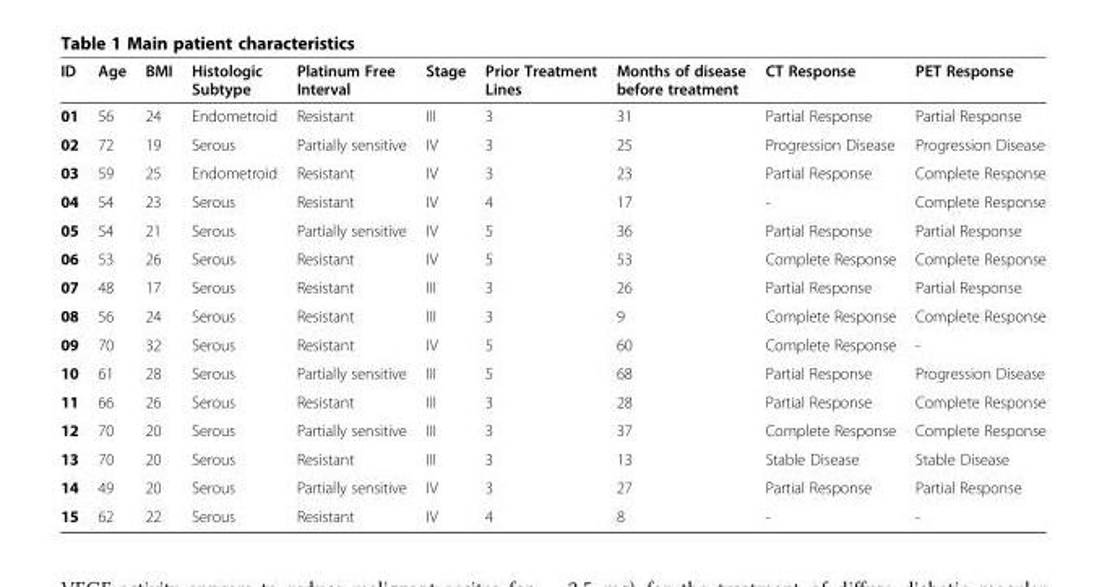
<table><thead><tr><td>ID</td><td>Age</td><td>BMI</td><td>Histologic Subtype</td><td>Platinum Free Interval</td><td>Stage</td><td>Prior Treatment Lines</td><td>Months of disease before treatment</td><td>CT Response</td><td>PET Response</td></tr></thead><tbody><tr><td>01</td><td>56</td><td>24</td><td>Endometroid</td><td>Resistant</td><td>III</td><td>3</td><td>31</td><td>Partial Response</td><td>Partial Response</td></tr><tr><td>02</td><td>72</td><td>19</td><td>Serous</td><td>Partially sensitive</td><td>IV</td><td>3</td><td>25</td><td>Progression Disease</td><td>Progression Disease</td></tr><tr><td>03</td><td>59</td><td>25</td><td>Endometroid</td><td>Resistant</td><td>IV</td><td>3</td><td>23</td><td>Partial Response</td><td>Complete Response</td></tr><tr><td>04</td><td>54</td><td>23</td><td>Serous</td><td>Resistant</td><td>IV</td><td>4</td><td>17</td><td>-</td><td>Complete Response</td></tr><tr><td>05</td><td>54</td><td>21</td><td>Serous</td><td>Partially sensitive</td><td>IV</td><td>5</td><td>36</td><td>Partial Response</td><td>Partial Response</td></tr><tr><td>06</td><td>53</td><td>26</td><td>Serous</td><td>Resistant</td><td>IV</td><td>5</td><td>53</td><td>Complete Response</td><td>Complete Response</td></tr><tr><td>07</td><td>48</td><td>17</td><td>Serous</td><td>Resistant</td><td>III</td><td>3</td><td>26</td><td>Partial Response</td><td>Partial Response</td></tr><tr><td>08</td><td>56</td><td>24</td><td>Serous</td><td>Resistant</td><td>III</td><td>3</td><td>9</td><td>Complete Response</td><td>Complete Response</td></tr><tr><td>09</td><td>70</td><td>32</td><td>Serous</td><td>Resistant</td><td>IV</td><td>5</td><td>60</td><td>Complete Response</td><td>-</td></tr><tr><td>10</td><td>61</td><td>28</td><td>Serous</td><td>Partially sensitive</td><td>III</td><td>5</td><td>68</td><td>Partial Response</td><td>Progression Disease</td></tr><tr><td>11</td><td>66</td><td>26</td><td>Serous</td><td>Resistant</td><td>III</td><td>3</td><td>28</td><td>Partial Response</td><td>Complete Response</td></tr><tr><td>12</td><td>70</td><td>20</td><td>Serous</td><td>Partially sensitive</td><td>III</td><td>3</td><td>37</td><td>Complete Response</td><td>Complete Response</td></tr><tr><td>13</td><td>70</td><td>20</td><td>Serous</td><td>Resistant</td><td>III</td><td>3</td><td>13</td><td>Stable Disease</td><td>Stable Disease</td></tr><tr><td>14</td><td>49</td><td>20</td><td>Serous</td><td>Partially sensitive</td><td>IV</td><td>3</td><td>27</td><td>Partial Response</td><td>Partial Response</td></tr><tr><td>15</td><td>62</td><td>22</td><td>Serous</td><td>Resistant</td><td>IV</td><td>4</td><td>8</td><td>-</td><td>-</td></tr></tbody></table>